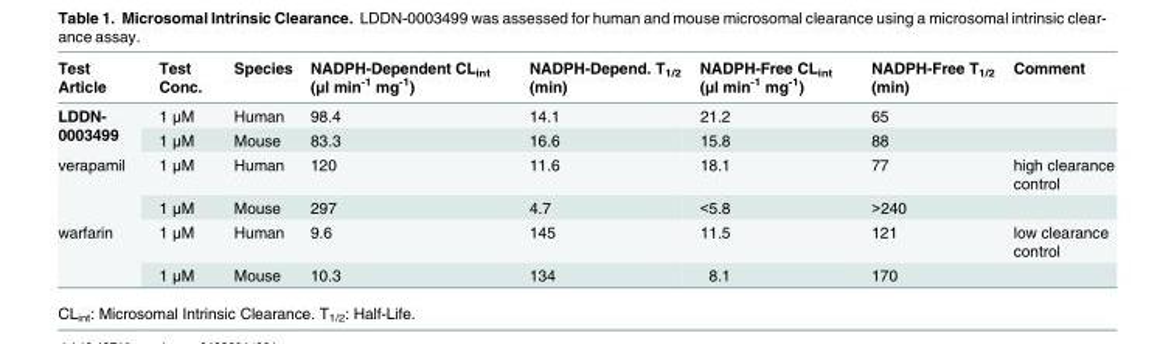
<table><thead><tr><td>Test Article</td><td>Test Conc.</td><td>Species</td><td>NADPH-Dependent CL<sub>int</sub> (μl min<sup>-1</sup> mg<sup>-1</sup>)</td><td>NADPH-Depend. T<sub>1/2</sub> (min)</td><td>NADPH-Free CL<sub>int</sub> (μl min<sup>-1</sup> mg<sup>-1</sup>)</td><td>NADPH-Free T<sub>1/2</sub> (min)</td><td>Comment</td></tr></thead><tbody><tr><td rowspan="2">LDDN- 0003499</td><td>1 μM</td><td>Human</td><td>98.4</td><td>14.1</td><td>21.2</td><td>65</td><td></td></tr><tr><td>1 μM</td><td>Mouse</td><td>83.3</td><td>16.6</td><td>15.8</td><td>88</td><td></td></tr><tr><td rowspan="2">verapamil</td><td>1 μM</td><td>Human</td><td>120</td><td>11.6</td><td>18.1</td><td>77</td><td>high clearance control</td></tr><tr><td>1 μM</td><td>Mouse</td><td>297</td><td>4.7</td><td>&lt;5.8</td><td>&gt;240</td><td></td></tr><tr><td rowspan="2">warfarin</td><td>1 μM</td><td>Human</td><td>9.6</td><td>145</td><td>11.5</td><td>121</td><td>low clearance control</td></tr><tr><td>1 μM</td><td>Mouse</td><td>10.3</td><td>134</td><td>8.1</td><td>170</td><td></td></tr></tbody></table>